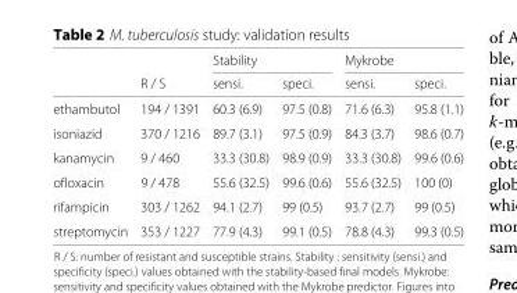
<table><thead><tr><td rowspan="2"></td><td rowspan="2">R / S</td><td colspan="2">Stability</td><td colspan="2">Mykrobe</td></tr><tr><td>sensi.</td><td>speci.</td><td>sensi.</td><td>speci.</td></tr></thead><tbody><tr><td>ethambutol</td><td>194 / 1391</td><td>60.3 (6.9)</td><td>97.5 (0.8)</td><td>71.6 (6.3)</td><td>95.8 (1.1)</td></tr><tr><td>isoniazid</td><td>370 / 1216</td><td>89.7 (3.1)</td><td>97.5 (0.9)</td><td>84.3 (3.7)</td><td>98.6 (0.7)</td></tr><tr><td>kanamycin</td><td>9 / 460</td><td>33.3 (30.8)</td><td>98.9 (0.9)</td><td>33.3 (30.8)</td><td>99.6 (0.6)</td></tr><tr><td>ofloxacin</td><td>9 / 478</td><td>55.6 (32.5)</td><td>99.6 (0.6)</td><td>55.6 (32.5)</td><td>100 (0)</td></tr><tr><td>rifampicin</td><td>303 / 1262</td><td>94.1 (2.7)</td><td>99 (0.5)</td><td>93.7 (2.7)</td><td>99 (0.5)</td></tr><tr><td>streptomycin</td><td>353 / 1227</td><td>77.9 (4.3)</td><td>99.1 (0.5)</td><td>78.8 (4.3)</td><td>99.3 (0.5)</td></tr></tbody></table>